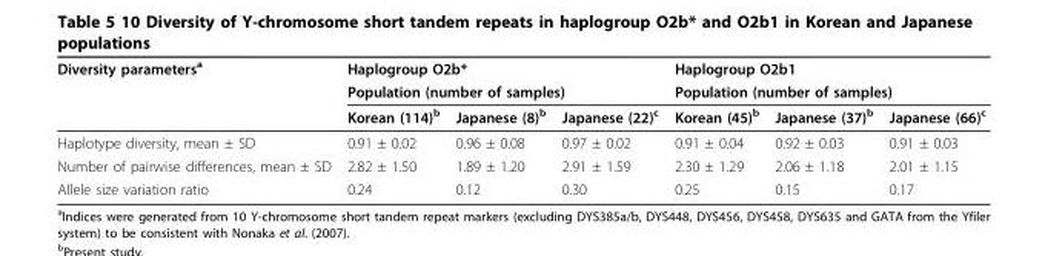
<table><tbody><tr><td rowspan="3">Diversity parameters<sup>a</sup></td><td colspan="3">Haplogroup O2b*</td><td colspan="3">Haplogroup O2b1</td></tr><tr><td colspan="3">Population (number of samples)</td><td colspan="3">Population (number of samples)</td></tr><tr><td>Korean (114)<sup>b</sup></td><td>Japanese (8)<sup>b</sup></td><td>Japanese (22)<sup>c</sup></td><td>Korean (45)<sup>b</sup></td><td>Japanese (37)<sup>b</sup></td><td>Japanese (66)<sup>c</sup></td></tr><tr><td>Haplotype diversity, mean ± SD</td><td>0.91 ± 0.02</td><td>0.96 ± 0.08</td><td>0.97 ± 0.02</td><td>0.91 ± 0.04</td><td>0.92 ± 0.03</td><td>0.91 ± 0.03</td></tr><tr><td>Number of pairwise differences, mean ± SD</td><td>2.82 ± 1.50</td><td>1.89 ± 1.20</td><td>2.91 ± 1.59</td><td>2.30 ± 1.29</td><td>2.06 ± 1.18</td><td>2.01 ± 1.15</td></tr><tr><td>Allele size variation ratio</td><td>0.24</td><td>0.12</td><td>0.30</td><td>0.25</td><td>0.15</td><td>0.17</td></tr></tbody></table>